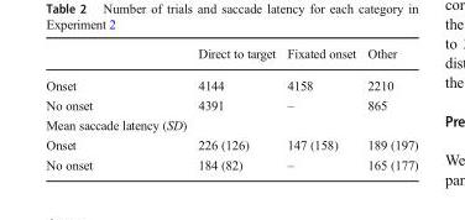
<table><thead><tr><td></td><td>Direct to target</td><td>Fixated onset</td><td>Other</td></tr></thead><tbody><tr><td>Onset</td><td>4144</td><td>4158</td><td>2210</td></tr><tr><td>No onset</td><td>4391</td><td>–</td><td>865</td></tr><tr><td colspan="4">Mean saccade latency (SD)</td></tr><tr><td>Onset</td><td>226 (126)</td><td>147 (158)</td><td>189 (197)</td></tr><tr><td>No onset</td><td>184 (82)</td><td>–</td><td>165 (177)</td></tr></tbody></table>